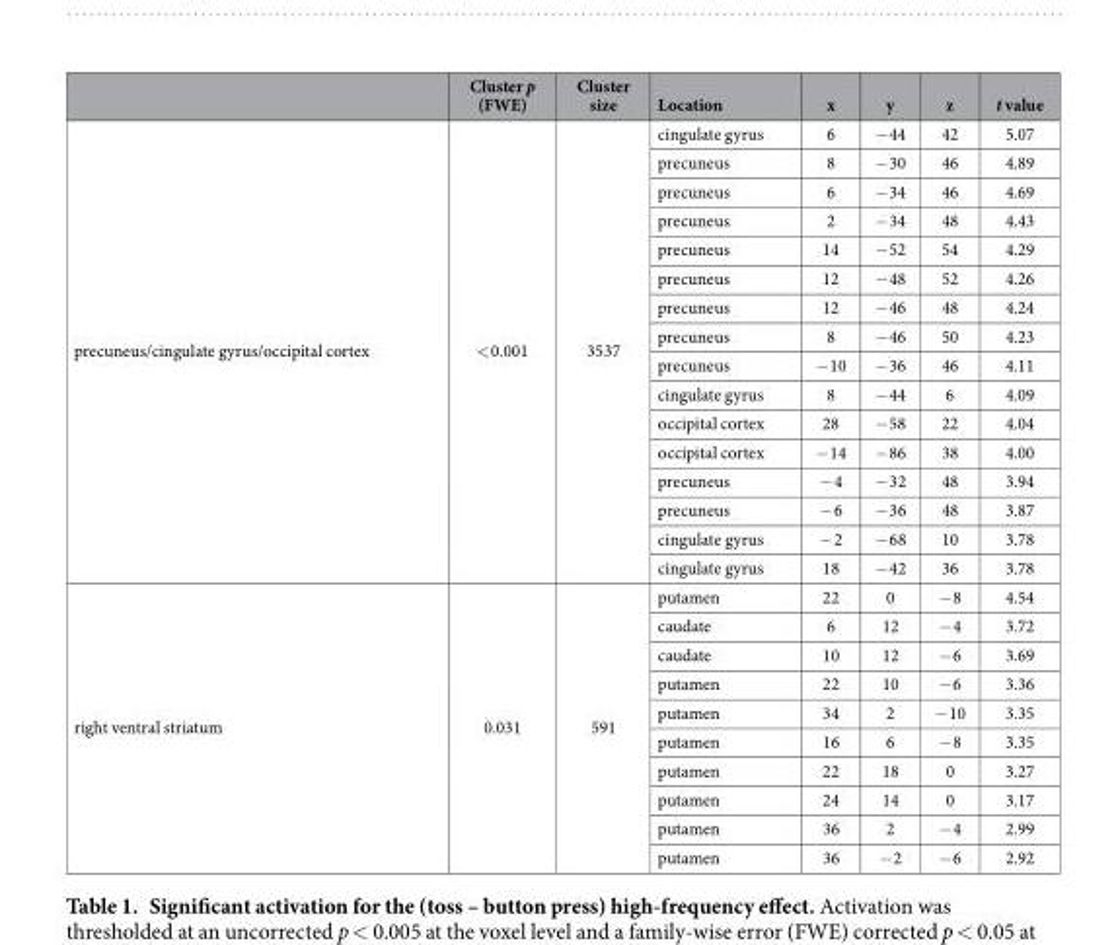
<table><thead><tr><td></td><td>Cluster p (FWE)</td><td>Cluster size</td><td>Location</td><td>x</td><td>y</td><td>z</td><td>t value</td></tr></thead><tbody><tr><td rowspan="16">precuneus/cingulate gyrus/occipital cortex</td><td rowspan="16">&lt; 0.001</td><td rowspan="16">3537</td><td>cingulate gyrus</td><td>6</td><td>− 44</td><td>42</td><td>5.07</td></tr><tr><td>precuneus</td><td>8</td><td>− 30</td><td>46</td><td>4.89</td></tr><tr><td>precuneus</td><td>6</td><td>− 34</td><td>46</td><td>4.69</td></tr><tr><td>precuneus</td><td>2</td><td>− 34</td><td>48</td><td>4.43</td></tr><tr><td>precuneus</td><td>14</td><td>− 52</td><td>54</td><td>4.29</td></tr><tr><td>precuneus</td><td>12</td><td>− 48</td><td>52</td><td>4.26</td></tr><tr><td>precuneus</td><td>12</td><td>− 46</td><td>48</td><td>4.24</td></tr><tr><td>precuneus</td><td>8</td><td>− 46</td><td>50</td><td>4.23</td></tr><tr><td>precuneus</td><td>− 10</td><td>− 36</td><td>46</td><td>4.11</td></tr><tr><td>cingulate gyrus</td><td>8</td><td>− 44</td><td>6</td><td>4.09</td></tr><tr><td>occipital cortex</td><td>28</td><td>− 58</td><td>22</td><td>4.04</td></tr><tr><td>occipital cortex</td><td>− 14</td><td>− 86</td><td>38</td><td>4.00</td></tr><tr><td>precuneus</td><td>− 4</td><td>− 32</td><td>48</td><td>3.94</td></tr><tr><td>precuneus</td><td>− 6</td><td>− 36</td><td>48</td><td>3.87</td></tr><tr><td>cingulate gyrus</td><td>− 2</td><td>− 68</td><td>10</td><td>3.78</td></tr><tr><td>cingulate gyrus</td><td>18</td><td>− 42</td><td>36</td><td>3.78</td></tr><tr><td rowspan="10">right ventral striatum</td><td rowspan="10">0.031</td><td rowspan="10">591</td><td>putamen</td><td>22</td><td>0</td><td>− 8</td><td>4.54</td></tr><tr><td>caudate</td><td>6</td><td>12</td><td>− 4</td><td>3.72</td></tr><tr><td>caudate</td><td>10</td><td>12</td><td>− 6</td><td>3.69</td></tr><tr><td>putamen</td><td>22</td><td>10</td><td>− 6</td><td>3.36</td></tr><tr><td>putamen</td><td>34</td><td>2</td><td>− 10</td><td>3.35</td></tr><tr><td>putamen</td><td>16</td><td>6</td><td>− 8</td><td>3.35</td></tr><tr><td>putamen</td><td>22</td><td>18</td><td>0</td><td>3.27</td></tr><tr><td>putamen</td><td>24</td><td>14</td><td>0</td><td>3.17</td></tr><tr><td>putamen</td><td>36</td><td>2</td><td>− 4</td><td>2.99</td></tr><tr><td>putamen</td><td>36</td><td>− 2</td><td>− 6</td><td>2.92</td></tr></tbody></table>